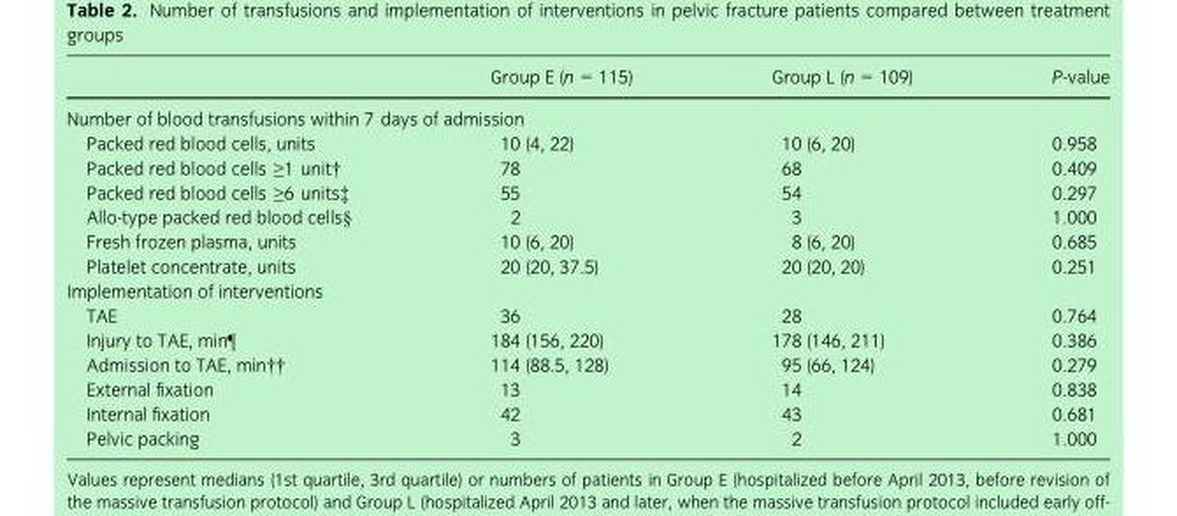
<table><thead><tr><td></td><td>Group E (n = 115)</td><td>Group L (n = 109)</td><td>P-value</td></tr></thead><tbody><tr><td colspan="4">Number of blood transfusions within 7 days of admission</td></tr><tr><td>Packed red blood cells, units</td><td>10 (4, 22)</td><td>10 (6, 20)</td><td>0.958</td></tr><tr><td>Packed red blood cells ≥1 unit†</td><td>78</td><td>68</td><td>0.409</td></tr><tr><td>Packed red blood cells ≥6 units‡</td><td>55</td><td>54</td><td>0.297</td></tr><tr><td>Allo-type packed red blood cells§</td><td>2</td><td>3</td><td>1.000</td></tr><tr><td>Fresh frozen plasma, units</td><td>10 (6, 20)</td><td>8 (6, 20)</td><td>0.685</td></tr><tr><td>Platelet concentrate, units</td><td>20 (20, 37.5)</td><td>20 (20, 20)</td><td>0.251</td></tr><tr><td colspan="4">Implementation of interventions</td></tr><tr><td>TAE</td><td>36</td><td>28</td><td>0.764</td></tr><tr><td>Injury to TAE, min¶</td><td>184 (156, 220)</td><td>178 (146, 211)</td><td>0.386</td></tr><tr><td>Admission to TAE, min††</td><td>114 (88.5, 128)</td><td>95 (66, 124)</td><td>0.279</td></tr><tr><td>External fixation</td><td>13</td><td>14</td><td>0.838</td></tr><tr><td>Internal fixation</td><td>42</td><td>43</td><td>0.681</td></tr><tr><td>Pelvic packing</td><td>3</td><td>2</td><td>1.000</td></tr></tbody></table>